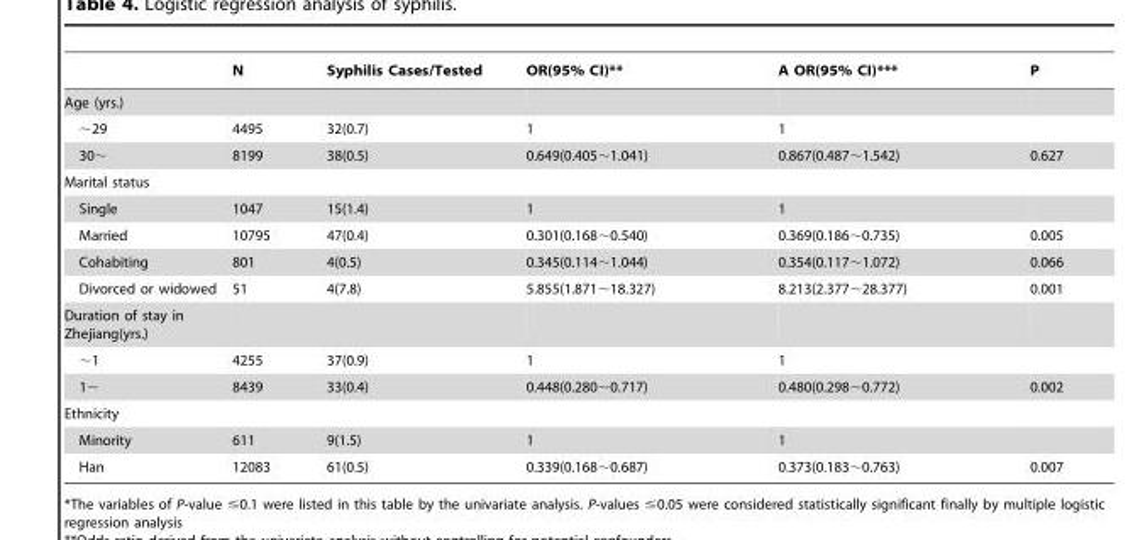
<table><thead><tr><td></td><td>N</td><td>Syphilis Cases/Tested</td><td>OR(95% CI)**</td><td>A OR(95% CI)***</td><td>P</td></tr></thead><tbody><tr><td colspan="6">Age (yrs.)</td></tr><tr><td>∼29</td><td>4495</td><td>32(0.7)</td><td>1</td><td>1</td><td></td></tr><tr><td>30∼</td><td>8199</td><td>38(0.5)</td><td>0.649(0.405∼1.041)</td><td>0.867(0.487∼1.542)</td><td>0.627</td></tr><tr><td colspan="6">Marital status</td></tr><tr><td>Single</td><td>1047</td><td>15(1.4)</td><td>1</td><td>1</td><td></td></tr><tr><td>Married</td><td>10795</td><td>47(0.4)</td><td>0.301(0.168∼0.540)</td><td>0.369(0.186∼0.735)</td><td>0.005</td></tr><tr><td>Cohabiting</td><td>801</td><td>4(0.5)</td><td>0.345(0.114∼1.044)</td><td>0.354(0.117∼1.072)</td><td>0.066</td></tr><tr><td>Divorced or widowed</td><td>51</td><td>4(7.8)</td><td>5.855(1.871∼18.327)</td><td>8.213(2.377∼28.377)</td><td>0.001</td></tr><tr><td colspan="6">Duration of stay in Zhejiang(yrs.)</td></tr><tr><td>∼1</td><td>4255</td><td>37(0.9)</td><td>1</td><td>1</td><td></td></tr><tr><td>1∼</td><td>8439</td><td>33(0.4)</td><td>0.448(0.280∼0.717)</td><td>0.480(0.298∼0.772)</td><td>0.002</td></tr><tr><td colspan="6">Ethnicity</td></tr><tr><td>Minority</td><td>611</td><td>9(1.5)</td><td>1</td><td>1</td><td></td></tr><tr><td>Han</td><td>12083</td><td>61(0.5)</td><td>0.339(0.168∼0.687)</td><td>0.373(0.183∼0.763)</td><td>0.007</td></tr></tbody></table>